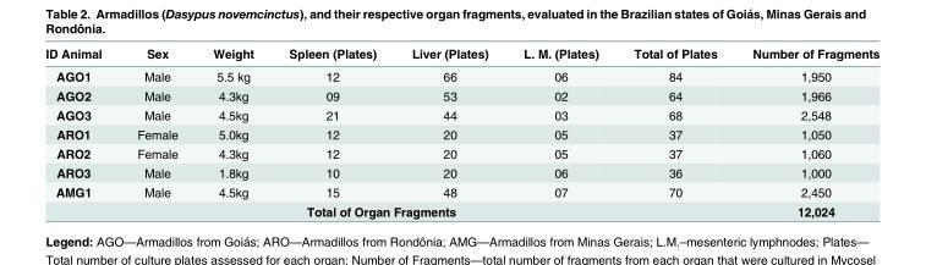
<table><thead><tr><td>ID Animal</td><td>Sex</td><td>Weight</td><td>Spleen (Plates)</td><td>Liver (Plates)</td><td>L. M. (Plates)</td><td>Total of Plates</td><td>Number of Fragments</td></tr></thead><tbody><tr><td>AGO1</td><td>Male</td><td>5.5 kg</td><td>12</td><td>66</td><td>06</td><td>84</td><td>1,950</td></tr><tr><td>AGO2</td><td>Male</td><td>4.3kg</td><td>09</td><td>53</td><td>02</td><td>64</td><td>1,966</td></tr><tr><td>AGO3</td><td>Male</td><td>4.5kg</td><td>21</td><td>44</td><td>03</td><td>68</td><td>2,548</td></tr><tr><td>ARO1</td><td>Female</td><td>5.0kg</td><td>12</td><td>20</td><td>05</td><td>37</td><td>1,050</td></tr><tr><td>ARO2</td><td>Female</td><td>4.3kg</td><td>12</td><td>20</td><td>05</td><td>37</td><td>1,060</td></tr><tr><td>ARO3</td><td>Male</td><td>1.8kg</td><td>10</td><td>20</td><td>06</td><td>36</td><td>1,000</td></tr><tr><td>AMG1</td><td>Male</td><td>4.5kg</td><td>15</td><td>48</td><td>07</td><td>70</td><td>2,450</td></tr><tr><td colspan="7">Total of Organ Fragments</td><td>12,024</td></tr></tbody></table>